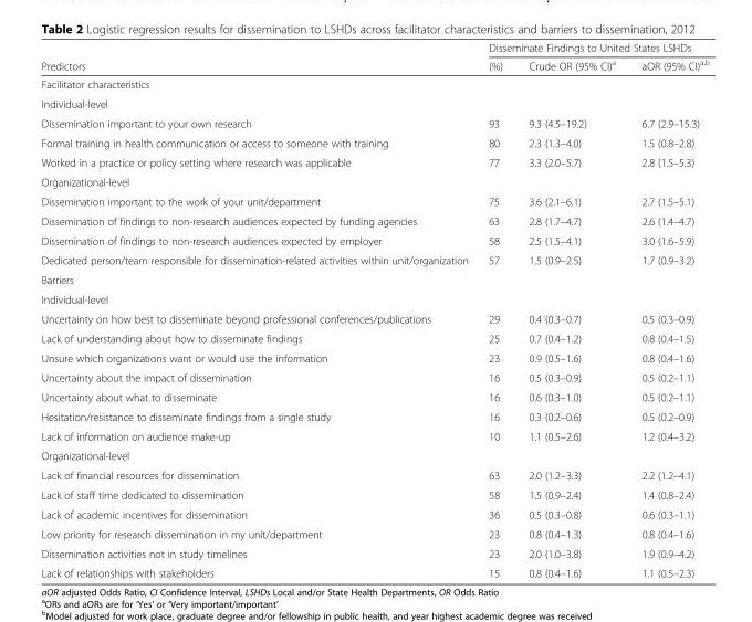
<table><thead><tr><td rowspan="2">Predictors</td><td colspan="3">Disseminate Findings to United States LSHDs</td></tr><tr><td>(%)</td><td>Crude OR (95% CI)<sup>a</sup></td><td>aOR (95% CI)<sup>a,b</sup></td></tr></thead><tbody><tr><td colspan="4">Facilitator characteristics</td></tr><tr><td colspan="4">Individual-level</td></tr><tr><td>Dissemination important to your own research</td><td>93</td><td>9.3 (4.5–19.2)</td><td>6.7 (2.9–15.3)</td></tr><tr><td>Formal training in health communication or access to someone with training</td><td>80</td><td>2.3 (1.3–4.0)</td><td>1.5 (0.8–2.8)</td></tr><tr><td>Worked in a practice or policy setting where research was applicable</td><td>77</td><td>3.3 (2.0–5.7)</td><td>2.8 (1.5–5.3)</td></tr><tr><td colspan="4">Organizational-level</td></tr><tr><td>Dissemination important to the work of your unit/department</td><td>75</td><td>3.6 (2.1–6.1)</td><td>2.7 (1.5–5.1)</td></tr><tr><td>Dissemination of findings to non-research audiences expected by funding agencies</td><td>63</td><td>2.8 (1.7–4.7)</td><td>2.6 (1.4–4.7)</td></tr><tr><td>Dissemination of findings to non-research audiences expected by employer</td><td>58</td><td>2.5 (1.5–4.1)</td><td>3.0 (1.6–5.9)</td></tr><tr><td>Dedicated person/team responsible for dissemination-related activities within unit/organization</td><td>57</td><td>1.5 (0.9–2.5)</td><td>1.7 (0.9–3.2)</td></tr><tr><td colspan="4">Barriers</td></tr><tr><td colspan="4">Individual-level</td></tr><tr><td>Uncertainty on how best to disseminate beyond professional conferences/publications</td><td>29</td><td>0.4 (0.3–0.7)</td><td>0.5 (0.3–0.9)</td></tr><tr><td>Lack of understanding about how to disseminate findings</td><td>25</td><td>0.7 (0.4–1.2)</td><td>0.8 (0.4–1.5)</td></tr><tr><td>Unsure which organizations want or would use the information</td><td>23</td><td>0.9 (0.5–1.6)</td><td>0.8 (0.4–1.6)</td></tr><tr><td>Uncertainty about the impact of dissemination</td><td>16</td><td>0.5 (0.3–0.9)</td><td>0.5 (0.2–1.1)</td></tr><tr><td>Uncertainty about what to disseminate</td><td>16</td><td>0.6 (0.3–1.0)</td><td>0.5 (0.2–1.1)</td></tr><tr><td>Hesitation/resistance to disseminate findings from a single study</td><td>16</td><td>0.3 (0.2–0.6)</td><td>0.5 (0.2–0.9)</td></tr><tr><td>Lack of information on audience make-up</td><td>10</td><td>1.1 (0.5–2.6)</td><td>1.2 (0.4–3.2)</td></tr><tr><td colspan="4">Organizational-level</td></tr><tr><td>Lack of financial resources for dissemination</td><td>63</td><td>2.0 (1.2–3.3)</td><td>2.2 (1.2–4.1)</td></tr><tr><td>Lack of staff time dedicated to dissemination</td><td>58</td><td>1.5 (0.9–2.4)</td><td>1.4 (0.8–2.4)</td></tr><tr><td>Lack of academic incentives for dissemination</td><td>36</td><td>0.5 (0.3–0.8)</td><td>0.6 (0.3–1.1)</td></tr><tr><td>Low priority for research dissemination in my unit/department</td><td>23</td><td>0.8 (0.4–1.3)</td><td>0.8 (0.4–1.6)</td></tr><tr><td>Dissemination activities not in study timelines</td><td>23</td><td>2.0 (1.0–3.8)</td><td>1.9 (0.9–4.2)</td></tr><tr><td>Lack of relationships with stakeholders</td><td>15</td><td>0.8 (0.4–1.6)</td><td>1.1 (0.5–2.3)</td></tr></tbody></table>